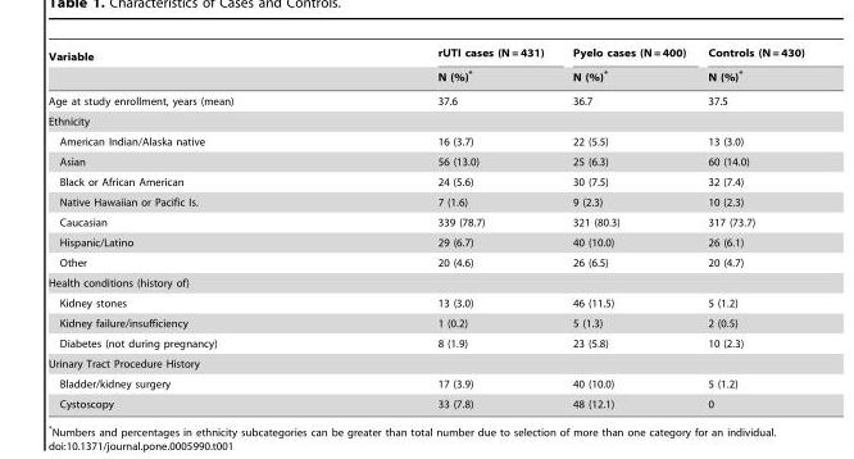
<table><thead><tr><td rowspan="2">Variable</td><td rowspan="2">rUTI cases (N = 431) N (%)*</td><td rowspan="2">Pyelo cases (N = 400) N (%)*</td><td rowspan="2">Controls (N = 430) N (%)*</td></tr><tr></tr></thead><tbody><tr><td>Age at study enrollment, years (mean)</td><td>37.6</td><td>36.7</td><td>37.5</td></tr><tr><td colspan="4">Ethnicity</td></tr><tr><td>American Indian/Alaska native</td><td>16 (3.7)</td><td>22 (5.5)</td><td>13 (3.0)</td></tr><tr><td>Asian</td><td>56 (13.0)</td><td>25 (6.3)</td><td>60 (14.0)</td></tr><tr><td>Black or African American</td><td>24 (5.6)</td><td>30 (7.5)</td><td>32 (7.4)</td></tr><tr><td>Native Hawaiian or Pacific Is.</td><td>7 (1.6)</td><td>9 (2.3)</td><td>10 (2.3)</td></tr><tr><td>Caucasian</td><td>339 (78.7)</td><td>321 (80.3)</td><td>317 (73.7)</td></tr><tr><td>Hispanic/Latino</td><td>29 (6.7)</td><td>40 (10.0)</td><td>26 (6.1)</td></tr><tr><td>Other</td><td>20 (4.6)</td><td>26 (6.5)</td><td>20 (4.7)</td></tr><tr><td colspan="4">Health conditions (history of)</td></tr><tr><td>Kidney stones</td><td>13 (3.0)</td><td>46 (11.5)</td><td>5 (1.2)</td></tr><tr><td>Kidney failure/insufficiency</td><td>1 (0.2)</td><td>5 (1.3)</td><td>2 (0.5)</td></tr><tr><td>Diabetes (not during pregnancy)</td><td>8 (1.9)</td><td>23 (5.8)</td><td>10 (2.3)</td></tr><tr><td colspan="4">Urinary Tract Procedure History</td></tr><tr><td>Bladder/kidney surgery</td><td>17 (3.9)</td><td>40 (10.0)</td><td>5 (1.2)</td></tr><tr><td>Cystoscopy</td><td>33 (7.8)</td><td>48 (12.1)</td><td>0</td></tr></tbody></table>